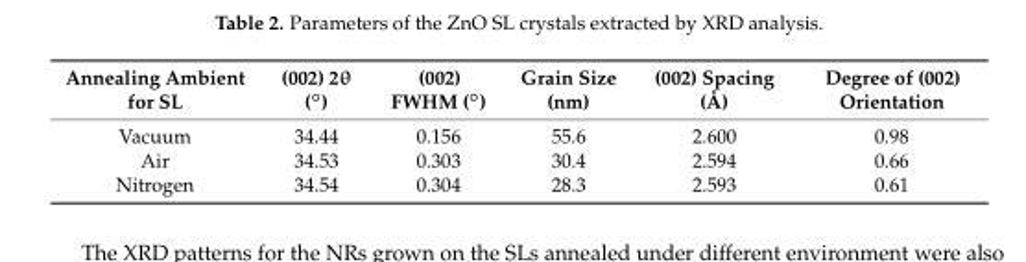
<table><thead><tr><td>Annealing Ambient for SL</td><td>(002) 2θ (◦)</td><td>(002) FWHM (◦)</td><td>Grain Size (nm)</td><td>(002) Spacing (Å)</td><td>Degree of (002) Orientation</td></tr></thead><tbody><tr><td>Vacuum</td><td>34.44</td><td>0.156</td><td>55.6</td><td>2.600</td><td>0.98</td></tr><tr><td>Air</td><td>34.53</td><td>0.303</td><td>30.4</td><td>2.594</td><td>0.66</td></tr><tr><td>Nitrogen</td><td>34.54</td><td>0.304</td><td>28.3</td><td>2.593</td><td>0.61</td></tr></tbody></table>